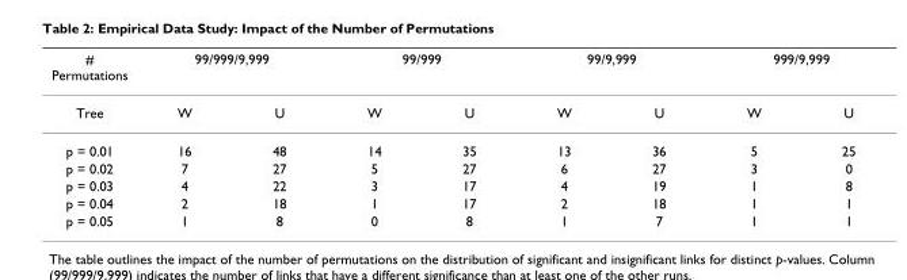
<table><thead><tr><td rowspan="2"># Permutations Tree</td><td colspan="2">99/999/9,999</td><td colspan="2">99/999</td><td colspan="2">99/9,999</td><td colspan="2">999/9,999</td></tr><tr><td>W</td><td>U</td><td>W</td><td>U</td><td>W</td><td>U</td><td>W</td><td>U</td></tr></thead><tbody><tr><td>p = 0.01</td><td>16</td><td>48</td><td>14</td><td>35</td><td>13</td><td>36</td><td>5</td><td>25</td></tr><tr><td>p = 0.02</td><td>7</td><td>27</td><td>5</td><td>27</td><td>6</td><td>27</td><td>3</td><td>0</td></tr><tr><td>p = 0.03</td><td>4</td><td>22</td><td>3</td><td>17</td><td>4</td><td>19</td><td>1</td><td>8</td></tr><tr><td>p = 0.04</td><td>2</td><td>18</td><td>1</td><td>17</td><td>2</td><td>18</td><td>1</td><td>1</td></tr><tr><td>p = 0.05</td><td>1</td><td>8</td><td>0</td><td>8</td><td>1</td><td>7</td><td>1</td><td>1</td></tr></tbody></table>